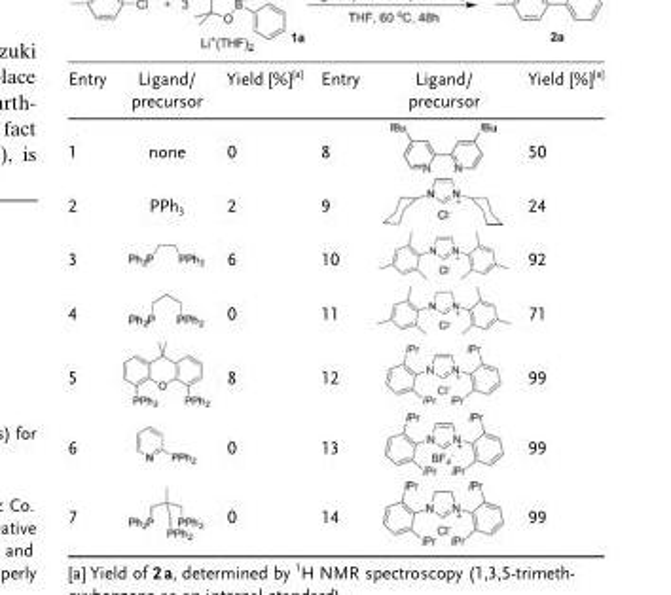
<table><thead><tr><td>Entry</td><td>Ligand/ precursor</td><td>Yield [%]<sup>[a]</sup></td><td>Entry</td><td>Ligand/ precursor</td><td>Yield [%]<sup>[a]</sup></td></tr></thead><tbody><tr><td>1</td><td>none</td><td>0</td><td>8</td><td></td><td>50</td></tr><tr><td>2</td><td>PPh<sub>3</sub></td><td>2</td><td>9</td><td></td><td>24</td></tr><tr><td>3</td><td></td><td>6</td><td>10</td><td></td><td>92</td></tr><tr><td>4</td><td></td><td>0</td><td>11</td><td></td><td>71</td></tr><tr><td>5</td><td></td><td>8</td><td>12</td><td></td><td>99</td></tr><tr><td>6</td><td></td><td>0</td><td>13</td><td></td><td>99</td></tr><tr><td>7</td><td></td><td>0</td><td>14</td><td></td><td>99</td></tr></tbody></table>